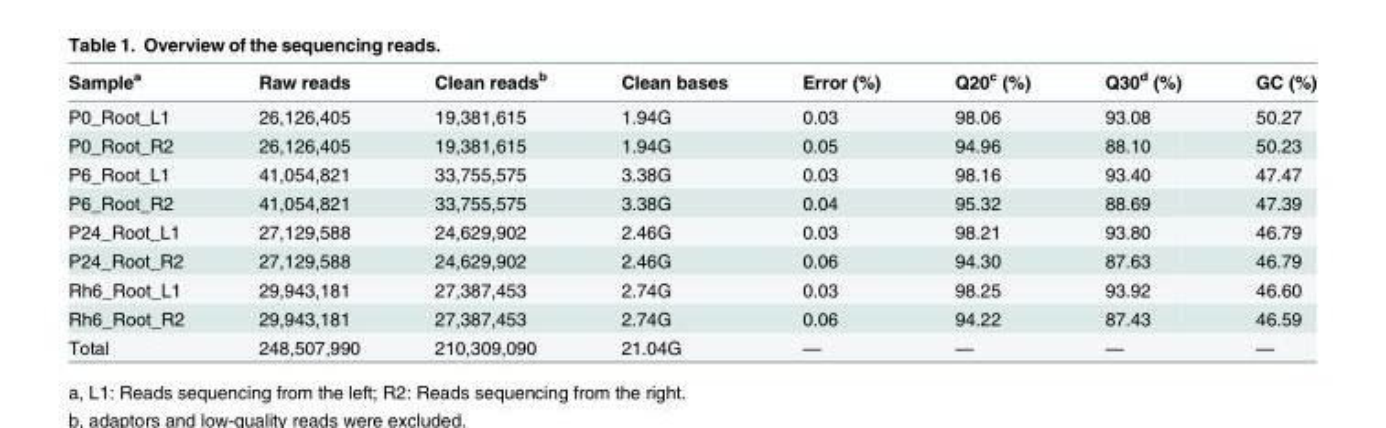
<table><thead><tr><td>Sample<sup>a</sup></td><td>Raw reads</td><td>Clean reads<sup>b</sup></td><td>Clean bases</td><td>Error (%)</td><td>Q20<sup>c</sup> (%)</td><td>Q30<sup>d</sup> (%)</td><td>GC (%)</td></tr></thead><tbody><tr><td>P0_Root_L1</td><td>26,126,405</td><td>19,381,615</td><td>1.94G</td><td>0.03</td><td>98.06</td><td>93.08</td><td>50.27</td></tr><tr><td>P0_Root_R2</td><td>26,126,405</td><td>19,381,615</td><td>1.94G</td><td>0.05</td><td>94.96</td><td>88.10</td><td>50.23</td></tr><tr><td>P6_Root_L1</td><td>41,054,821</td><td>33,755,575</td><td>3.38G</td><td>0.03</td><td>98.16</td><td>93.40</td><td>47.47</td></tr><tr><td>P6_Root_R2</td><td>41,054,821</td><td>33,755,575</td><td>3.38G</td><td>0.04</td><td>95.32</td><td>88.69</td><td>47.39</td></tr><tr><td>P24_Root_L1</td><td>27,129,588</td><td>24,629,902</td><td>2.46G</td><td>0.03</td><td>98.21</td><td>93.80</td><td>46.79</td></tr><tr><td>P24_Root_R2</td><td>27,129,588</td><td>24,629,902</td><td>2.46G</td><td>0.06</td><td>94.30</td><td>87.63</td><td>46.79</td></tr><tr><td>Rh6_Root_L1</td><td>29,943,181</td><td>27,387,453</td><td>2.74G</td><td>0.03</td><td>98.25</td><td>93.92</td><td>46.60</td></tr><tr><td>Rh6_Root_R2</td><td>29,943,181</td><td>27,387,453</td><td>2.74G</td><td>0.06</td><td>94.22</td><td>87.43</td><td>46.59</td></tr><tr><td>Total</td><td>248,507,990</td><td>210,309,090</td><td>21.04G</td><td>—</td><td>—</td><td>—</td><td>—</td></tr></tbody></table>